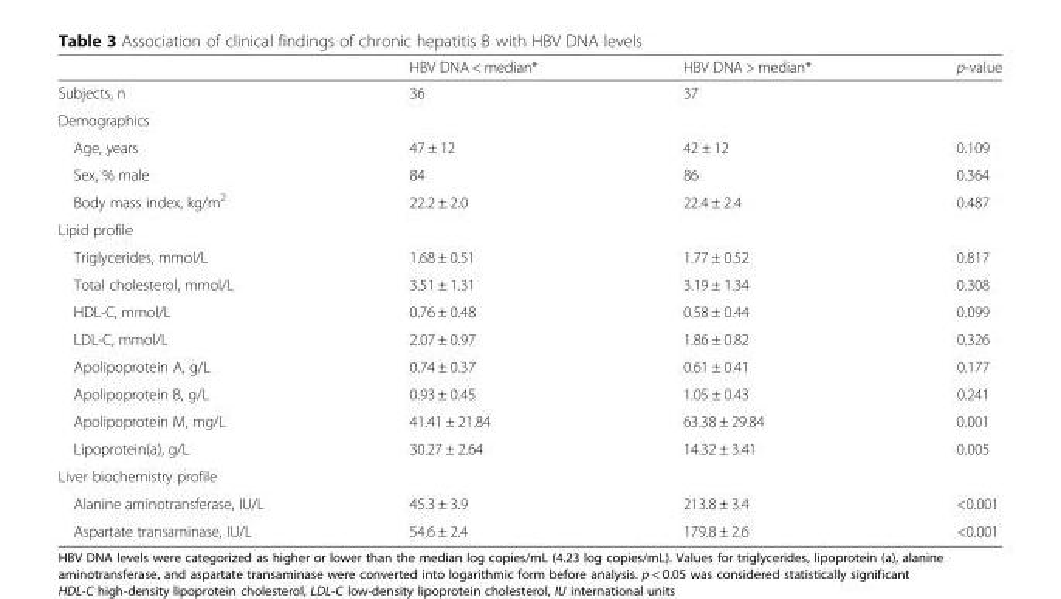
<table><thead><tr><td></td><td>HBV DNA &lt; median*</td><td>HBV DNA &gt; median*</td><td>p-value</td></tr></thead><tbody><tr><td>Subjects, n</td><td>36</td><td>37</td><td></td></tr><tr><td colspan="4">Demographics</td></tr><tr><td>Age, years</td><td>47 ± 12</td><td>42 ± 12</td><td>0.109</td></tr><tr><td>Sex, % male</td><td>84</td><td>86</td><td>0.364</td></tr><tr><td>Body mass index, kg/m<sup>2</sup></td><td>22.2 ± 2.0</td><td>22.4 ± 2.4</td><td>0.487</td></tr><tr><td colspan="4">Lipid profile</td></tr><tr><td>Triglycerides, mmol/L</td><td>1.68 ± 0.51</td><td>1.77 ± 0.52</td><td>0.817</td></tr><tr><td>Total cholesterol, mmol/L</td><td>3.51 ± 1.31</td><td>3.19 ± 1.34</td><td>0.308</td></tr><tr><td>HDL-C, mmol/L</td><td>0.76 ± 0.48</td><td>0.58 ± 0.44</td><td>0.099</td></tr><tr><td>LDL-C, mmol/L</td><td>2.07 ± 0.97</td><td>1.86 ± 0.82</td><td>0.326</td></tr><tr><td>Apolipoprotein A, g/L</td><td>0.74 ± 0.37</td><td>0.61 ± 0.41</td><td>0.177</td></tr><tr><td>Apolipoprotein B, g/L</td><td>0.93 ± 0.45</td><td>1.05 ± 0.43</td><td>0.241</td></tr><tr><td>Apolipoprotein M, mg/L</td><td>41.41 ± 21.84</td><td>63.38 ± 29.84</td><td>0.001</td></tr><tr><td>Lipoprotein(a), g/L</td><td>30.27 ± 2.64</td><td>14.32 ± 3.41</td><td>0.005</td></tr><tr><td colspan="4">Liver biochemistry profile</td></tr><tr><td>Alanine aminotransferase, IU/L</td><td>45.3 ± 3.9</td><td>213.8 ± 3.4</td><td>&lt;0.001</td></tr><tr><td>Aspartate transaminase, IU/L</td><td>54.6 ± 2.4</td><td>179.8 ± 2.6</td><td>&lt;0.001</td></tr></tbody></table>